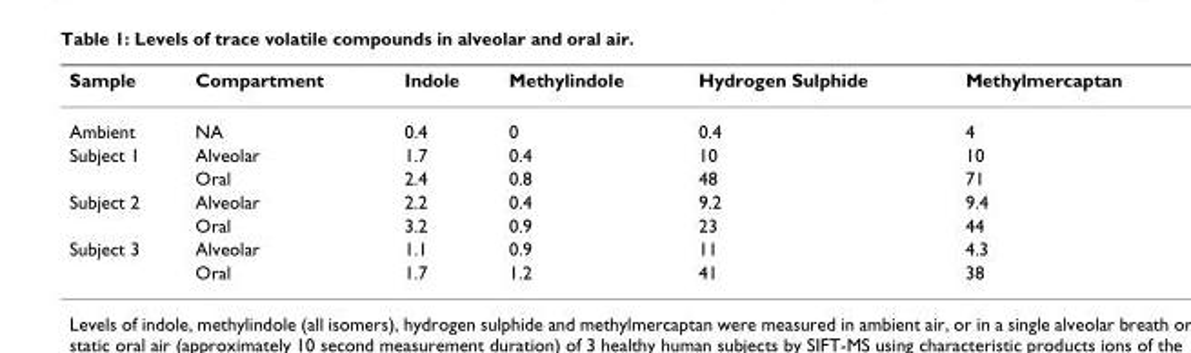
<table><thead><tr><td>Sample</td><td>Compartment</td><td>Indole</td><td>Methylindole</td><td>Hydrogen Sulphide</td><td>Methylmercaptan</td></tr></thead><tbody><tr><td>Ambient</td><td>NA</td><td>0.4</td><td>0</td><td>0.4</td><td>4</td></tr><tr><td rowspan="2">Subject 1</td><td>Alveolar</td><td>1.7</td><td>0.4</td><td>10</td><td>10</td></tr><tr><td>Oral</td><td>2.4</td><td>0.8</td><td>48</td><td>71</td></tr><tr><td rowspan="2">Subject 2</td><td>Alveolar</td><td>2.2</td><td>0.4</td><td>9.2</td><td>9.4</td></tr><tr><td>Oral</td><td>3.2</td><td>0.9</td><td>23</td><td>44</td></tr><tr><td rowspan="2">Subject 3</td><td>Alveolar</td><td>1.1</td><td>0.9</td><td>11</td><td>4.3</td></tr><tr><td>Oral</td><td>1.7</td><td>1.2</td><td>41</td><td>38</td></tr></tbody></table>